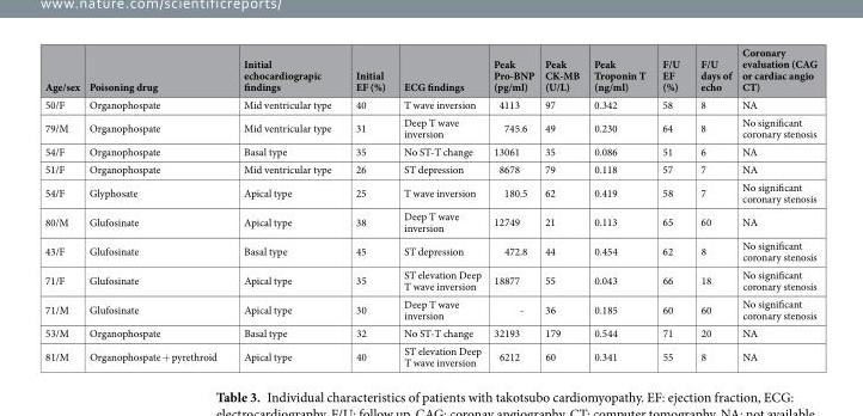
<table><thead><tr><td>Age/sex</td><td>Poisoning drug</td><td>Initial echocardiograpic findings</td><td>Initial EF (%)</td><td>ECG findings</td><td>Peak Pro-BNP (pg/ml)</td><td>Peak CK-MB (U/L)</td><td>Peak Troponin T (ng/ml)</td><td>F/U EF (%)</td><td>F/U days of echo</td><td>Coronary evaluation (CAG or cardiac angio CT)</td></tr></thead><tbody><tr><td>50/F</td><td>Organophospate</td><td>Mid ventricular type</td><td>40</td><td>T wave inversion</td><td>4113</td><td>97</td><td>0.342</td><td>58</td><td>8</td><td>NA</td></tr><tr><td>79/M</td><td>Organophospate</td><td>Mid ventricular type</td><td>31</td><td>Deep T wave inversion</td><td>745.6</td><td>49</td><td>0.230</td><td>64</td><td>8</td><td>No significant coronary stenosis</td></tr><tr><td>54/F</td><td>Organophospate</td><td>Basal type</td><td>35</td><td>No ST-T change</td><td>13061</td><td>35</td><td>0.086</td><td>51</td><td>6</td><td>NA</td></tr><tr><td>51/F</td><td>Organophospate</td><td>Mid ventricular type</td><td>26</td><td>ST depression</td><td>8678</td><td>79</td><td>0.118</td><td>57</td><td>7</td><td>NA</td></tr><tr><td>54/F</td><td>Glyphosate</td><td>Apical type</td><td>25</td><td>T wave inversion</td><td>180.5</td><td>62</td><td>0.419</td><td>58</td><td>7</td><td>No significant coronary stenosis</td></tr><tr><td>80/M</td><td>Glufosinate</td><td>Apical type</td><td>38</td><td>Deep T wave inversion</td><td>12749</td><td>21</td><td>0.113</td><td>65</td><td>60</td><td>NA</td></tr><tr><td>43/F</td><td>Glufosinate</td><td>Basal type</td><td>45</td><td>ST depression</td><td>472.8</td><td>44</td><td>0.454</td><td>62</td><td>8</td><td>No significant coronary stenosis</td></tr><tr><td>71/F</td><td>Glufosinate</td><td>Apical type</td><td>35</td><td>ST elevation Deep T wave inversion</td><td>18877</td><td>55</td><td>0.043</td><td>66</td><td>18</td><td>No significant coronary stenosis</td></tr><tr><td>71/M</td><td>Glufosinate</td><td>Apical type</td><td>30</td><td>Deep T wave inversion</td><td>-</td><td>36</td><td>0.185</td><td>60</td><td>60</td><td>No significant coronary stenosis</td></tr><tr><td>53/M</td><td>Organophospate</td><td>Basal type</td><td>32</td><td>No ST-T change</td><td>32193</td><td>179</td><td>0.544</td><td>71</td><td>20</td><td>NA</td></tr><tr><td>81/M</td><td>Organophospate + pyrethroid</td><td>Apical type</td><td>40</td><td>ST elevation Deep T wave inversion</td><td>6212</td><td>60</td><td>0.341</td><td>55</td><td>8</td><td>NA</td></tr></tbody></table>